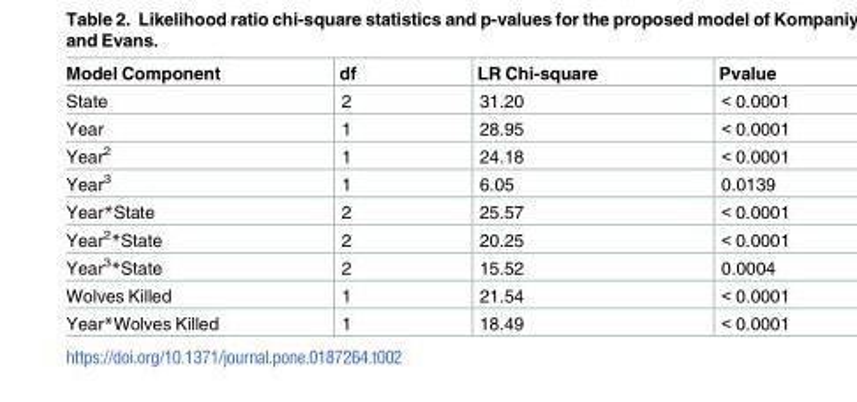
<table><thead><tr><td>Model Component</td><td>df</td><td>LR Chi-square</td><td>Pvalue</td></tr></thead><tbody><tr><td>State</td><td>2</td><td>31.20</td><td>&lt; 0.0001</td></tr><tr><td>Year</td><td>1</td><td>28.95</td><td>&lt; 0.0001</td></tr><tr><td>Year<sup>2</sup></td><td>1</td><td>24.18</td><td>&lt; 0.0001</td></tr><tr><td>Year<sup>3</sup></td><td>1</td><td>6.05</td><td>0.0139</td></tr><tr><td>Year*State</td><td>2</td><td>25.57</td><td>&lt; 0.0001</td></tr><tr><td>Year<sup>2</sup>*State</td><td>2</td><td>20.25</td><td>&lt; 0.0001</td></tr><tr><td>Year<sup>3</sup>*State</td><td>2</td><td>15.52</td><td>0.0004</td></tr><tr><td>Wolves Killed</td><td>1</td><td>21.54</td><td>&lt; 0.0001</td></tr><tr><td>Year*Wolves Killed</td><td>1</td><td>18.49</td><td>&lt; 0.0001</td></tr></tbody></table>